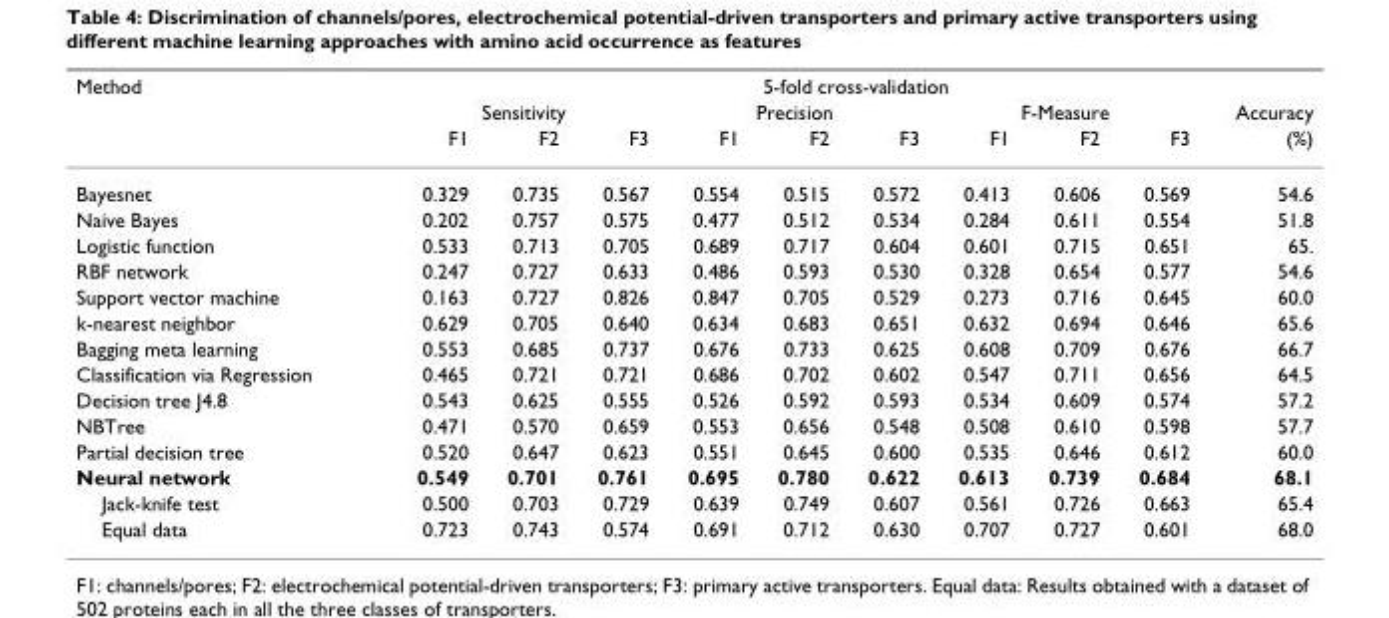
<table><thead><tr><td rowspan="3">Method</td><td colspan="10">5-fold cross-validation</td></tr><tr><td colspan="3">Sensitivity</td><td colspan="3">Precision</td><td colspan="3">F-Measure</td><td rowspan="2">Accuracy (%)</td></tr><tr><td>F1</td><td>F2</td><td>F3</td><td>F1</td><td>F2</td><td>F3</td><td>F1</td><td>F2</td><td>F3</td></tr></thead><tbody><tr><td>Bayesnet</td><td>0.329</td><td>0.735</td><td>0.567</td><td>0.554</td><td>0.515</td><td>0.572</td><td>0.413</td><td>0.606</td><td>0.569</td><td>54.6</td></tr><tr><td>Naive Bayes</td><td>0.202</td><td>0.757</td><td>0.575</td><td>0.477</td><td>0.512</td><td>0.534</td><td>0.284</td><td>0.611</td><td>0.554</td><td>51.8</td></tr><tr><td>Logistic function</td><td>0.533</td><td>0.713</td><td>0.705</td><td>0.689</td><td>0.717</td><td>0.604</td><td>0.601</td><td>0.715</td><td>0.651</td><td>65.</td></tr><tr><td>RBF network</td><td>0.247</td><td>0.727</td><td>0.633</td><td>0.486</td><td>0.593</td><td>0.530</td><td>0.328</td><td>0.654</td><td>0.577</td><td>54.6</td></tr><tr><td>Support vector machine</td><td>0.163</td><td>0.727</td><td>0.826</td><td>0.847</td><td>0.705</td><td>0.529</td><td>0.273</td><td>0.716</td><td>0.645</td><td>60.0</td></tr><tr><td>k-nearest neighbor</td><td>0.629</td><td>0.705</td><td>0.640</td><td>0.634</td><td>0.683</td><td>0.651</td><td>0.632</td><td>0.694</td><td>0.646</td><td>65.6</td></tr><tr><td>Bagging meta learning</td><td>0.553</td><td>0.685</td><td>0.737</td><td>0.676</td><td>0.733</td><td>0.625</td><td>0.608</td><td>0.709</td><td>0.676</td><td>66.7</td></tr><tr><td>Classification via Regression</td><td>0.465</td><td>0.721</td><td>0.721</td><td>0.686</td><td>0.702</td><td>0.602</td><td>0.547</td><td>0.711</td><td>0.656</td><td>64.5</td></tr><tr><td>Decision tree J4.8</td><td>0.543</td><td>0.625</td><td>0.555</td><td>0.526</td><td>0.592</td><td>0.593</td><td>0.534</td><td>0.609</td><td>0.574</td><td>57.2</td></tr><tr><td>NBTree</td><td>0.471</td><td>0.570</td><td>0.659</td><td>0.553</td><td>0.656</td><td>0.548</td><td>0.508</td><td>0.610</td><td>0.598</td><td>57.7</td></tr><tr><td>Partial decision tree</td><td>0.520</td><td>0.647</td><td>0.623</td><td>0.551</td><td>0.645</td><td>0.600</td><td>0.535</td><td>0.646</td><td>0.612</td><td>60.0</td></tr><tr><td>Neural network</td><td>0.549</td><td>0.701</td><td>0.761</td><td>0.695</td><td>0.780</td><td>0.622</td><td>0.613</td><td>0.739</td><td>0.684</td><td>68.1</td></tr><tr><td>Jack-knife test</td><td>0.500</td><td>0.703</td><td>0.729</td><td>0.639</td><td>0.749</td><td>0.607</td><td>0.561</td><td>0.726</td><td>0.663</td><td>65.4</td></tr><tr><td>Equal data</td><td>0.723</td><td>0.743</td><td>0.574</td><td>0.691</td><td>0.712</td><td>0.630</td><td>0.707</td><td>0.727</td><td>0.601</td><td>68.0</td></tr></tbody></table>